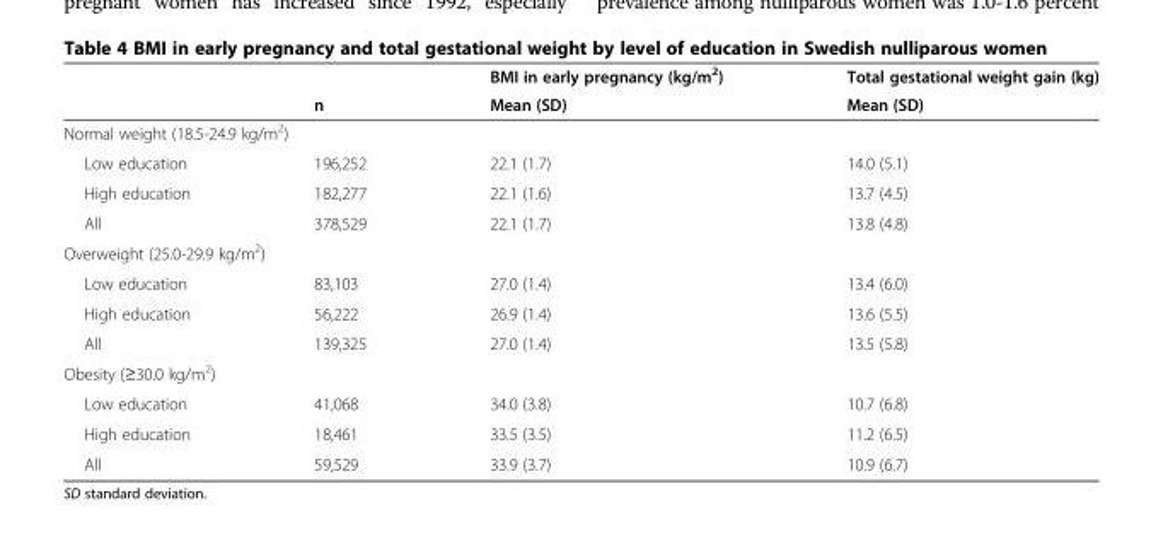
<table><thead><tr><td rowspan="2"></td><td rowspan="2">n</td><td rowspan="2">BMI in early pregnancy (kg/m<sup>2</sup>) Mean (SD)</td><td rowspan="2">Total gestational weight gain (kg) Mean (SD)</td></tr><tr></tr></thead><tbody><tr><td colspan="4">Normal weight (18.5-24.9 kg/m<sup>2</sup>)</td></tr><tr><td>Low education</td><td>196,252</td><td>22.1 (1.7)</td><td>14.0 (5.1)</td></tr><tr><td>High education</td><td>182,277</td><td>22.1 (1.6)</td><td>13.7 (4.5)</td></tr><tr><td>All</td><td>378,529</td><td>22.1 (1.7)</td><td>13.8 (4.8)</td></tr><tr><td colspan="4">Overweight (25.0-29.9 kg/m<sup>2</sup>)</td></tr><tr><td>Low education</td><td>83,103</td><td>27.0 (1.4)</td><td>13.4 (6.0)</td></tr><tr><td>High education</td><td>56,222</td><td>26.9 (1.4)</td><td>13.6 (5.5)</td></tr><tr><td>All</td><td>139,325</td><td>27.0 (1.4)</td><td>13.5 (5.8)</td></tr><tr><td colspan="4">Obesity (≥30.0 kg/m<sup>2</sup>)</td></tr><tr><td>Low education</td><td>41,068</td><td>34.0 (3.8)</td><td>10.7 (6.8)</td></tr><tr><td>High education</td><td>18,461</td><td>33.5 (3.5)</td><td>11.2 (6.5)</td></tr><tr><td>All</td><td>59,529</td><td>33.9 (3.7)</td><td>10.9 (6.7)</td></tr></tbody></table>